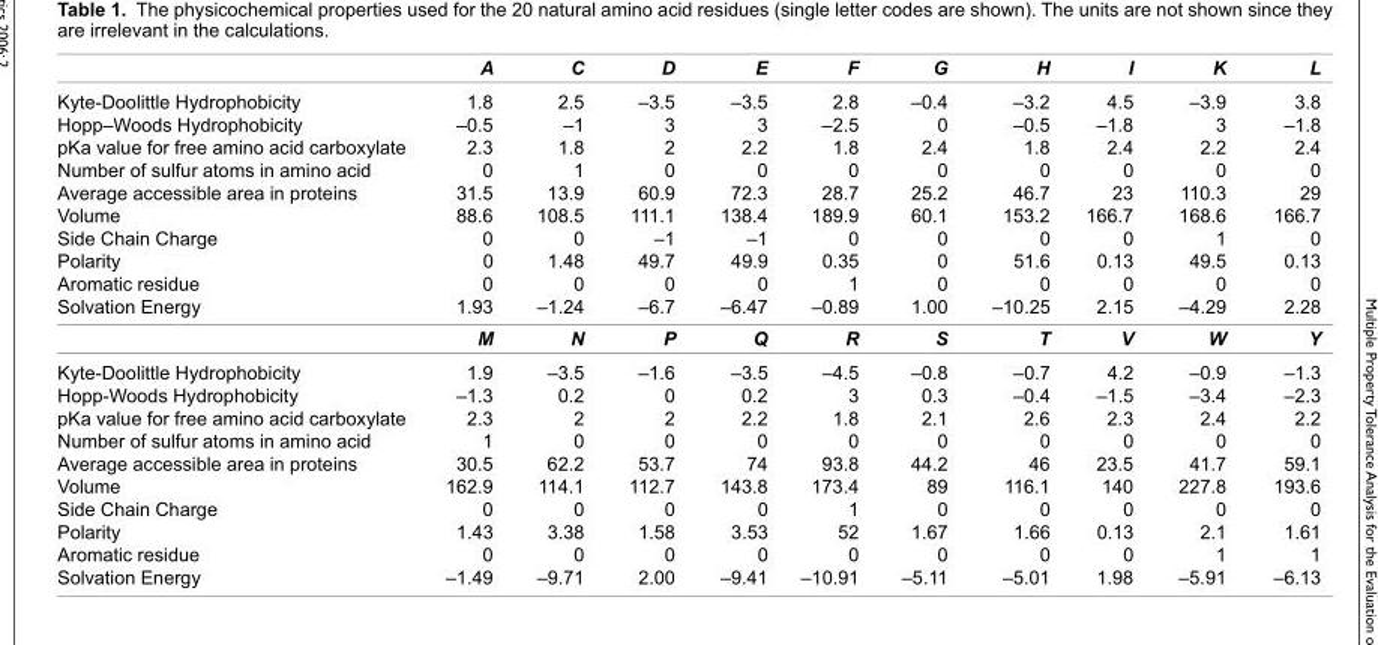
<table><thead><tr><td></td><td>A</td><td>C</td><td>D</td><td>E</td><td>F</td><td>G</td><td>H</td><td>I</td><td>K</td><td>L</td></tr></thead><tbody><tr><td>Kyte-Doolittle Hydrophobicity</td><td>1.8</td><td>2.5</td><td>–3.5</td><td>–3.5</td><td>2.8</td><td>–0.4</td><td>–3.2</td><td>4.5</td><td>–3.9</td><td>3.8</td></tr><tr><td>Hopp–Woods Hydrophobicity</td><td>–0.5</td><td>–1</td><td>3</td><td>3</td><td>–2.5</td><td>0</td><td>–0.5</td><td>–1.8</td><td>3</td><td>–1.8</td></tr><tr><td>pKa value for free amino acid carboxylate</td><td>2.3</td><td>1.8</td><td>2</td><td>2.2</td><td>1.8</td><td>2.4</td><td>1.8</td><td>2.4</td><td>2.2</td><td>2.4</td></tr><tr><td>Number of sulfur atoms in amino acid</td><td>0</td><td>1</td><td>0</td><td>0</td><td>0</td><td>0</td><td>0</td><td>0</td><td>0</td><td>0</td></tr><tr><td>Average accessible area in proteins</td><td>31.5</td><td>13.9</td><td>60.9</td><td>72.3</td><td>28.7</td><td>25.2</td><td>46.7</td><td>23</td><td>110.3</td><td>29</td></tr><tr><td>Volume</td><td>88.6</td><td>108.5</td><td>111.1</td><td>138.4</td><td>189.9</td><td>60.1</td><td>153.2</td><td>166.7</td><td>168.6</td><td>166.7</td></tr><tr><td>Side Chain Charge</td><td>0</td><td>0</td><td>–1</td><td>–1</td><td>0</td><td>0</td><td>0</td><td>0</td><td>1</td><td>0</td></tr><tr><td>Polarity</td><td>0</td><td>1.48</td><td>49.7</td><td>49.9</td><td>0.35</td><td>0</td><td>51.6</td><td>0.13</td><td>49.5</td><td>0.13</td></tr><tr><td>Aromatic residue</td><td>0</td><td>0</td><td>0</td><td>0</td><td>1</td><td>0</td><td>0</td><td>0</td><td>0</td><td>0</td></tr><tr><td rowspan="2">Solvation Energy</td><td>1.93</td><td>–1.24</td><td>–6.7</td><td>–6.47</td><td>–0.89</td><td>1.00</td><td>–10.25</td><td>2.15</td><td>–4.29</td><td>2.28</td></tr><tr><td>M</td><td>N</td><td>P</td><td>Q</td><td>R</td><td>S</td><td>T</td><td>V</td><td>W</td><td>Y</td></tr><tr><td>Kyte-Doolittle Hydrophobicity</td><td>1.9</td><td>–3.5</td><td>–1.6</td><td>–3.5</td><td>–4.5</td><td>–0.8</td><td>–0.7</td><td>4.2</td><td>–0.9</td><td>–1.3</td></tr><tr><td>Hopp-Woods Hydrophobicity</td><td>–1.3</td><td>0.2</td><td>0</td><td>0.2</td><td>3</td><td>0.3</td><td>–0.4</td><td>–1.5</td><td>–3.4</td><td>–2.3</td></tr><tr><td>pKa value for free amino acid carboxylate</td><td>2.3</td><td>2</td><td>2</td><td>2.2</td><td>1.8</td><td>2.1</td><td>2.6</td><td>2.3</td><td>2.4</td><td>2.2</td></tr><tr><td>Number of sulfur atoms in amino acid</td><td>1</td><td>0</td><td>0</td><td>0</td><td>0</td><td>0</td><td>0</td><td>0</td><td>0</td><td>0</td></tr><tr><td>Average accessible area in proteins</td><td>30.5</td><td>62.2</td><td>53.7</td><td>74</td><td>93.8</td><td>44.2</td><td>46</td><td>23.5</td><td>41.7</td><td>59.1</td></tr><tr><td>Volume</td><td>162.9</td><td>114.1</td><td>112.7</td><td>143.8</td><td>173.4</td><td>89</td><td>116.1</td><td>140</td><td>227.8</td><td>193.6</td></tr><tr><td>Side Chain Charge</td><td>0</td><td>0</td><td>0</td><td>0</td><td>1</td><td>0</td><td>0</td><td>0</td><td>0</td><td>0</td></tr><tr><td>Polarity</td><td>1.43</td><td>3.38</td><td>1.58</td><td>3.53</td><td>52</td><td>1.67</td><td>1.66</td><td>0.13</td><td>2.1</td><td>1.61</td></tr><tr><td>Aromatic residue</td><td>0</td><td>0</td><td>0</td><td>0</td><td>0</td><td>0</td><td>0</td><td>0</td><td>1</td><td>1</td></tr><tr><td>Solvation Energy</td><td>–1.49</td><td>–9.71</td><td>2.00</td><td>–9.41</td><td>–10.91</td><td>–5.11</td><td>–5.01</td><td>1.98</td><td>–5.91</td><td>–6.13</td></tr></tbody></table>